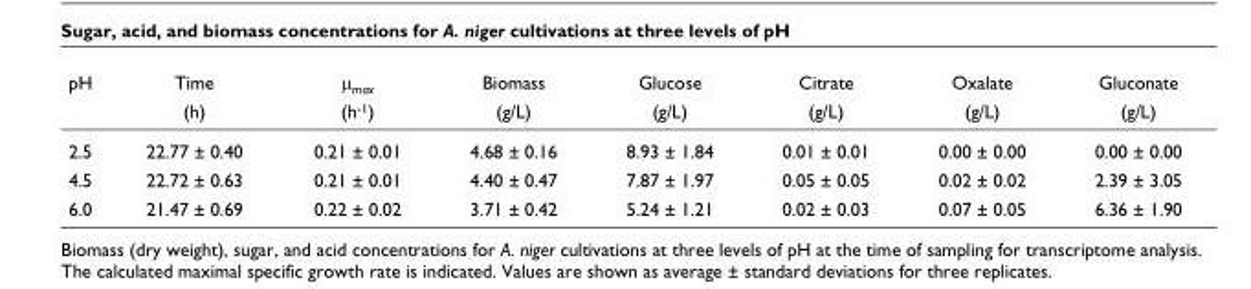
<table><thead><tr><td rowspan="2">pH</td><td rowspan="2">Time (h)</td><td rowspan="2">μ<sub>max</sub> (h<sup>-1</sup>)</td><td rowspan="2">Biomass (g/L)</td><td rowspan="2">Glucose (g/L)</td><td rowspan="2">Citrate (g/L)</td><td rowspan="2">Oxalate (g/L)</td><td rowspan="2">Gluconate (g/L)</td></tr><tr></tr></thead><tbody><tr><td>2.5</td><td>22.77 ± 0.40</td><td>0.21 ± 0.01</td><td>4.68 ± 0.16</td><td>8.93 ± 1.84</td><td>0.01 ± 0.01</td><td>0.00 ± 0.00</td><td>0.00 ± 0.00</td></tr><tr><td>4.5</td><td>22.72 ± 0.63</td><td>0.21 ± 0.01</td><td>4.40 ± 0.47</td><td>7.87 ± 1.97</td><td>0.05 ± 0.05</td><td>0.02 ± 0.02</td><td>2.39 ± 3.05</td></tr><tr><td>6.0</td><td>21.47 ± 0.69</td><td>0.22 ± 0.02</td><td>3.71 ± 0.42</td><td>5.24 ± 1.21</td><td>0.02 ± 0.03</td><td>0.07 ± 0.05</td><td>6.36 ± 1.90</td></tr></tbody></table>